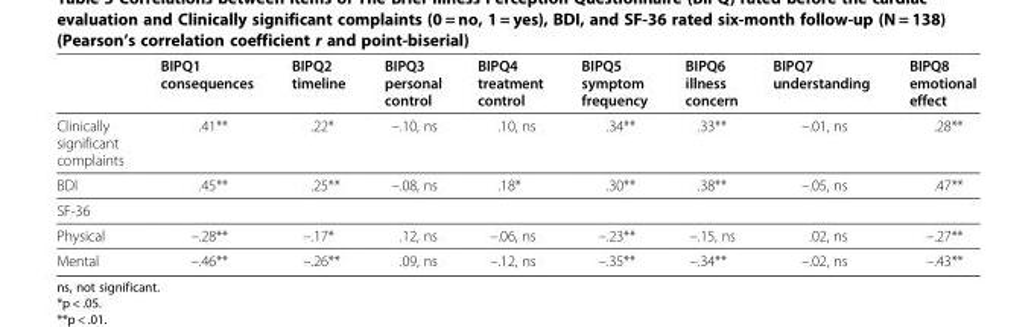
<table><thead><tr><td></td><td>BIPQ1 consequences</td><td>BIPQ2 timeline</td><td>BIPQ3 personal control</td><td>BIPQ4 treatment control</td><td>BIPQ5 symptom frequency</td><td>BIPQ6 illness concern</td><td>BIPQ7 understanding</td><td>BIPQ8 emotional effect</td></tr></thead><tbody><tr><td>Clinically significant complaints</td><td>.41**</td><td>.22*</td><td>–.10, ns</td><td>.10, ns</td><td>.34**</td><td>.33**</td><td>–.01, ns</td><td>.28**</td></tr><tr><td>BDI</td><td>.45**</td><td>.25**</td><td>–.08, ns</td><td>.18*</td><td>.30**</td><td>.38**</td><td>–.05, ns</td><td>.47**</td></tr><tr><td colspan="9">SF-36</td></tr><tr><td>Physical</td><td>–.28**</td><td>–.17*</td><td>.12, ns</td><td>–.06, ns</td><td>–.23**</td><td>–.15, ns</td><td>.02, ns</td><td>–.27**</td></tr><tr><td>Mental</td><td>–.46**</td><td>–.26**</td><td>.09, ns</td><td>–.12, ns</td><td>–.35**</td><td>–.34**</td><td>–.02, ns</td><td>–.43**</td></tr></tbody></table>